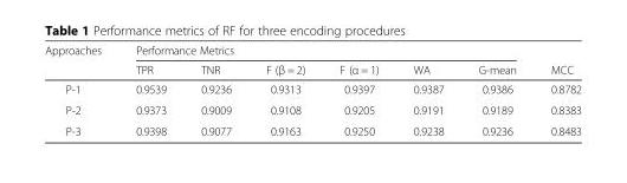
<table><thead><tr><td rowspan="2">Approaches</td><td colspan="6">Performance Metrics</td><td rowspan="2">MCC</td></tr><tr><td>TPR</td><td>TNR</td><td>F (β = 2)</td><td>F (α = 1)</td><td>WA</td><td>G-mean</td></tr></thead><tbody><tr><td>P-1</td><td>0.9539</td><td>0.9236</td><td>0.9313</td><td>0.9397</td><td>0.9387</td><td>0.9386</td><td>0.8782</td></tr><tr><td>P-2</td><td>0.9373</td><td>0.9009</td><td>0.9108</td><td>0.9205</td><td>0.9191</td><td>0.9189</td><td>0.8383</td></tr><tr><td>P-3</td><td>0.9398</td><td>0.9077</td><td>0.9163</td><td>0.9250</td><td>0.9238</td><td>0.9236</td><td>0.8483</td></tr></tbody></table>